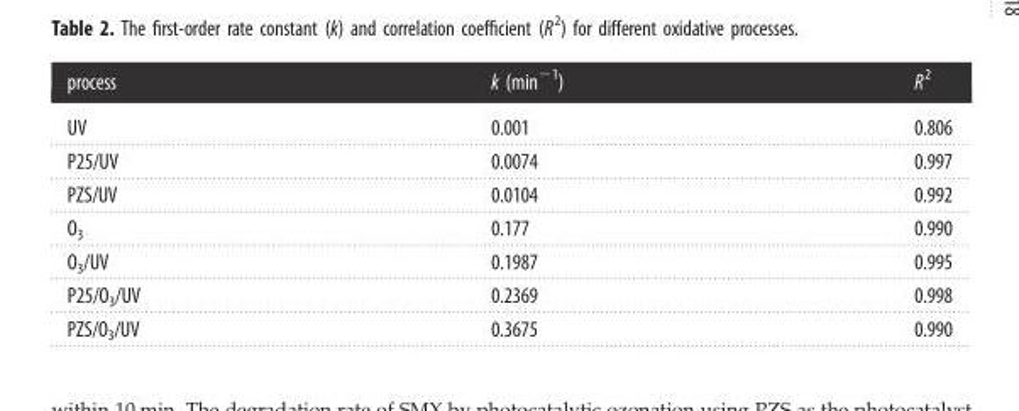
<table><thead><tr><td>process</td><td>k (min<sup>−1</sup>)</td><td>R<sup>2</sup></td></tr></thead><tbody><tr><td>UV</td><td>0.001</td><td>0.806</td></tr><tr><td>P25/UV</td><td>0.0074</td><td>0.997</td></tr><tr><td>PZS/UV</td><td>0.0104</td><td>0.992</td></tr><tr><td>O<sub>3</sub></td><td>0.177</td><td>0.990</td></tr><tr><td>O<sub>3</sub>/UV</td><td>0.1987</td><td>0.995</td></tr><tr><td>P25/O<sub>3</sub>/UV</td><td>0.2369</td><td>0.998</td></tr><tr><td>PZS/O<sub>3</sub>/UV</td><td>0.3675</td><td>0.990</td></tr></tbody></table>